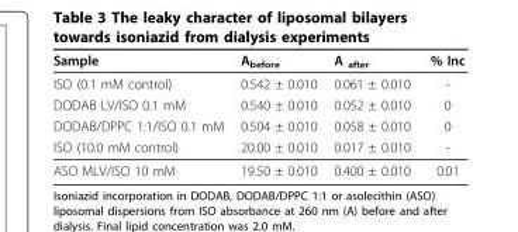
<table><thead><tr><td>Sample</td><td>A<sub>before</sub></td><td>A <sub>after</sub></td><td>% Inc</td></tr></thead><tbody><tr><td>ISO (0.1 mM control)</td><td>0.542 ± 0.010</td><td>0.061 ± 0.010</td><td>-</td></tr><tr><td>DODAB LV/ISO 0.1 mM</td><td>0.540 ± 0.010</td><td>0.052 ± 0.010</td><td>0</td></tr><tr><td>DODAB/DPPC 1:1/ISO 0.1 mM</td><td>0.504 ± 0.010</td><td>0.058 ± 0.010</td><td>0</td></tr><tr><td>ISO (10.0 mM control)</td><td>20.00 ± 0.010</td><td>0.017 ± 0.010</td><td>-</td></tr><tr><td>ASO MLV/ISO 10 mM</td><td>19.50 ± 0.010</td><td>0.400 ± 0.010</td><td>0.01</td></tr></tbody></table>